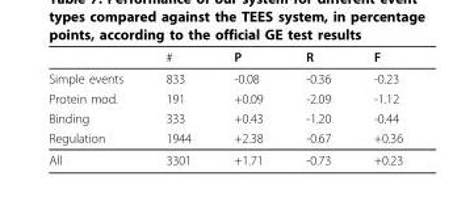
<table><thead><tr><td></td><td>#</td><td>P</td><td>R</td><td>F</td></tr></thead><tbody><tr><td>Simple events</td><td>833</td><td>-0.08</td><td>-0.36</td><td>-0.23</td></tr><tr><td>Protein mod.</td><td>191</td><td>+0.09</td><td>-2.09</td><td>-1.12</td></tr><tr><td>Binding</td><td>333</td><td>+0.43</td><td>-1.20</td><td>-0.44</td></tr><tr><td>Regulation</td><td>1944</td><td>+2.38</td><td>-0.67</td><td>+0.36</td></tr><tr><td>All</td><td>3301</td><td>+1.71</td><td>-0.73</td><td>+0.23</td></tr></tbody></table>